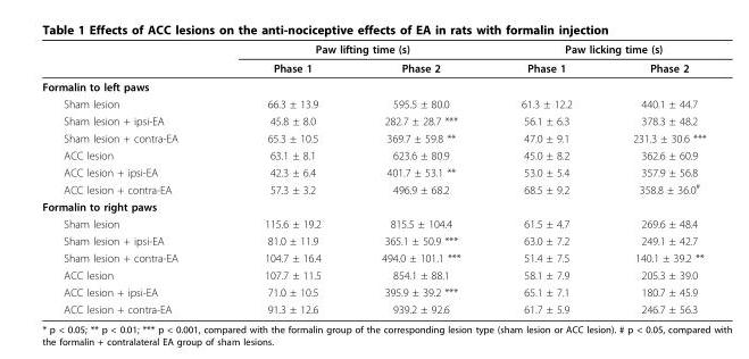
<table><thead><tr><td rowspan="2"></td><td colspan="2">Paw lifting time (s)</td><td colspan="2">Paw licking time (s)</td></tr><tr><td>Phase 1</td><td>Phase 2</td><td>Phase 1</td><td>Phase 2</td></tr></thead><tbody><tr><td colspan="5">Formalin to left paws</td></tr><tr><td>Sham lesion</td><td>66.3 ± 13.9</td><td>595.5 ± 80.0</td><td>61.3 ± 12.2</td><td>440.1 ± 44.7</td></tr><tr><td>Sham lesion + ipsi-EA</td><td>45.8 ± 8.0</td><td>282.7 ± 28.7 ***</td><td>56.1 ± 6.3</td><td>378.3 ± 48.2</td></tr><tr><td>Sham lesion + contra-EA</td><td>65.3 ± 10.5</td><td>369.7 ± 59.8 **</td><td>47.0 ± 9.1</td><td>231.3 ± 30.6 ***</td></tr><tr><td>ACC lesion</td><td>63.1 ± 8.1</td><td>623.6 ± 80.9</td><td>45.0 ± 8.2</td><td>362.6 ± 60.9</td></tr><tr><td>ACC lesion + ipsi-EA</td><td>42.3 ± 6.4</td><td>401.7 ± 53.1 **</td><td>53.0 ± 5.4</td><td>357.9 ± 56.8</td></tr><tr><td>ACC lesion + contra-EA</td><td>57.3 ± 3.2</td><td>496.9 ± 68.2</td><td>68.5 ± 9.2</td><td>358.8 ± 36.0<sup>#</sup></td></tr><tr><td colspan="5">Formalin to right paws</td></tr><tr><td>Sham lesion</td><td>115.6 ± 19.2</td><td>815.5 ± 104.4</td><td>61.5 ± 4.7</td><td>269.6 ± 48.4</td></tr><tr><td>Sham lesion + ipsi-EA</td><td>81.0 ± 11.9</td><td>365.1 ± 50.9 ***</td><td>63.0 ± 7.2</td><td>249.1 ± 42.7</td></tr><tr><td>Sham lesion + contra-EA</td><td>104.7 ± 16.4</td><td>494.0 ± 101.1 ***</td><td>51.4 ± 7.5</td><td>140.1 ± 39.2 **</td></tr><tr><td>ACC lesion</td><td>107.7 ± 11.5</td><td>854.1 ± 88.1</td><td>58.1 ± 7.9</td><td>205.3 ± 39.0</td></tr><tr><td>ACC lesion + ipsi-EA</td><td>71.0 ± 10.5</td><td>395.9 ± 39.2 ***</td><td>65.1 ± 7.1</td><td>180.7 ± 45.9</td></tr><tr><td>ACC lesion + contra-EA</td><td>91.3 ± 12.6</td><td>939.2 ± 92.6</td><td>61.7 ± 5.9</td><td>246.7 ± 56.3</td></tr></tbody></table>